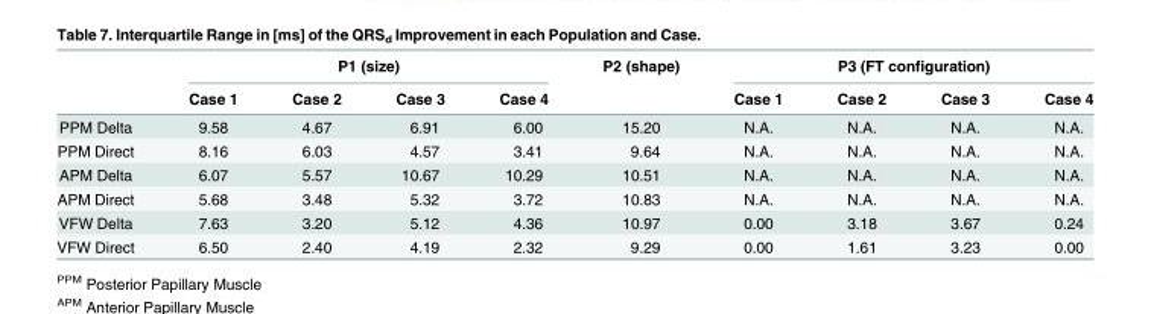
<table><thead><tr><td rowspan="2"></td><td colspan="4">P1 (size)</td><td rowspan="2">P2 (shape)</td><td colspan="4">P3 (FT configuration)</td></tr><tr><td>Case 1</td><td>Case 2</td><td>Case 3</td><td>Case 4</td><td>Case 1</td><td>Case 2</td><td>Case 3</td><td>Case 4</td></tr></thead><tbody><tr><td>PPM Delta</td><td>9.58</td><td>4.67</td><td>6.91</td><td>6.00</td><td>15.20</td><td>N.A.</td><td>N.A.</td><td>N.A.</td><td>N.A.</td></tr><tr><td>PPM Direct</td><td>8.16</td><td>6.03</td><td>4.57</td><td>3.41</td><td>9.64</td><td>N.A.</td><td>N.A.</td><td>N.A.</td><td>N.A.</td></tr><tr><td>APM Delta</td><td>6.07</td><td>5.57</td><td>10.67</td><td>10.29</td><td>10.51</td><td>N.A.</td><td>N.A.</td><td>N.A.</td><td>N.A.</td></tr><tr><td>APM Direct</td><td>5.68</td><td>3.48</td><td>5.32</td><td>3.72</td><td>10.83</td><td>N.A.</td><td>N.A.</td><td>N.A.</td><td>N.A.</td></tr><tr><td>VFW Delta</td><td>7.63</td><td>3.20</td><td>5.12</td><td>4.36</td><td>10.97</td><td>0.00</td><td>3.18</td><td>3.67</td><td>0.24</td></tr><tr><td>VFW Direct</td><td>6.50</td><td>2.40</td><td>4.19</td><td>2.32</td><td>9.29</td><td>0.00</td><td>1.61</td><td>3.23</td><td>0.00</td></tr></tbody></table>